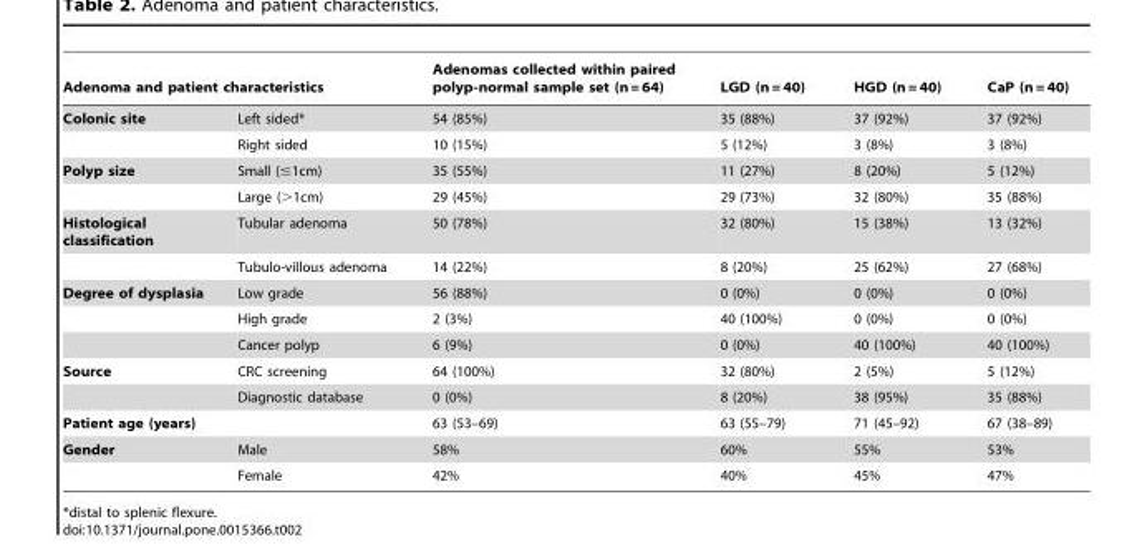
<table><thead><tr><td colspan="2">Adenoma and patient characteristics</td><td rowspan="2">Adenomas collected within paired polyp-normal sample set (n = 64) 54 (85%)</td><td rowspan="2">LGD (n = 40) 35 (88%)</td><td rowspan="2">HGD (n = 40) 37 (92%)</td><td rowspan="2">CaP (n = 40) 37 (92%)</td></tr><tr><td>Colonic site</td><td>Left sided*</td></tr></thead><tbody><tr><td></td><td>Right sided</td><td>10 (15%)</td><td>5 (12%)</td><td>3 (8%)</td><td>3 (8%)</td></tr><tr><td rowspan="2">Polyp size</td><td>Small (≤1cm)</td><td>35 (55%)</td><td>11 (27%)</td><td>8 (20%)</td><td>5 (12%)</td></tr><tr><td>Large (&gt;1cm)</td><td>29 (45%)</td><td>29 (73%)</td><td>32 (80%)</td><td>35 (88%)</td></tr><tr><td rowspan="2">Histological classification</td><td>Tubular adenoma</td><td>50 (78%)</td><td>32 (80%)</td><td>15 (38%)</td><td>13 (32%)</td></tr><tr><td>Tubulo-villous adenoma</td><td>14 (22%)</td><td>8 (20%)</td><td>25 (62%)</td><td>27 (68%)</td></tr><tr><td rowspan="3">Degree of dysplasia</td><td>Low grade</td><td>56 (88%)</td><td>0 (0%)</td><td>0 (0%)</td><td>0 (0%)</td></tr><tr><td>High grade</td><td>2 (3%)</td><td>40 (100%)</td><td>0 (0%)</td><td>0 (0%)</td></tr><tr><td>Cancer polyp</td><td>6 (9%)</td><td>0 (0%)</td><td>40 (100%)</td><td>40 (100%)</td></tr><tr><td rowspan="2">Source</td><td>CRC screening</td><td>64 (100%)</td><td>32 (80%)</td><td>2 (5%)</td><td>5 (12%)</td></tr><tr><td>Diagnostic database</td><td>0 (0%)</td><td>8 (20%)</td><td>38 (95%)</td><td>35 (88%)</td></tr><tr><td colspan="2">Patient age (years)</td><td>63 (53–69)</td><td>63 (55–79)</td><td>71 (45–92)</td><td>67 (38–89)</td></tr><tr><td rowspan="2">Gender</td><td>Male</td><td>58%</td><td>60%</td><td>55%</td><td>53%</td></tr><tr><td>Female</td><td>42%</td><td>40%</td><td>45%</td><td>47%</td></tr></tbody></table>